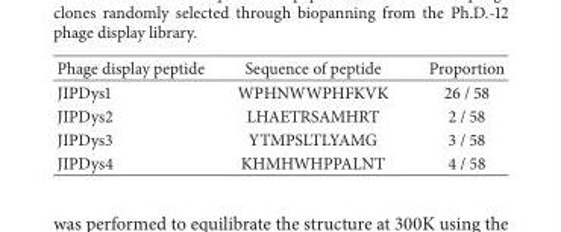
<table><thead><tr><td>Phage display peptide</td><td>Sequence of peptide</td><td>Proportion</td></tr></thead><tbody><tr><td>JIPDys1</td><td>WPHNWWPHFKVK</td><td>26 / 58</td></tr><tr><td>JIPDys2</td><td>LHAETRSAMHRT</td><td>2 / 58</td></tr><tr><td>JIPDys3</td><td>YTMPSLTLYAMG</td><td>3 / 58</td></tr><tr><td>JIPDys4</td><td>KHMHWHPPALNT</td><td>4 / 58</td></tr></tbody></table>